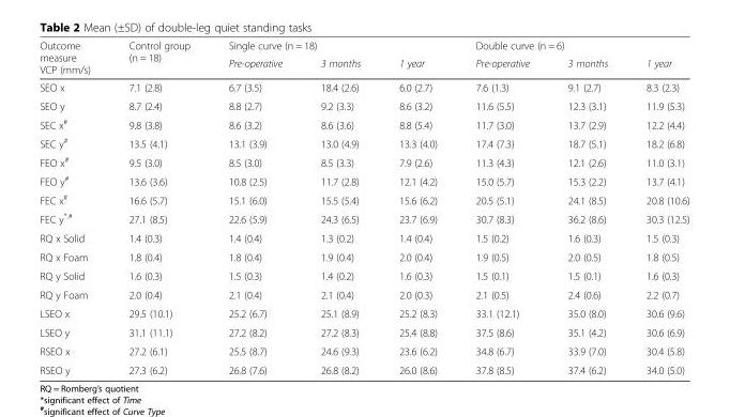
<table><thead><tr><td rowspan="2">Outcome measure VCP (mm/s)</td><td rowspan="2">Control group (n = 18)</td><td colspan="3">Single curve (n = 18)</td><td colspan="3">Double curve (n = 6)</td></tr><tr><td>Pre-operative</td><td>3 months</td><td>1 year</td><td>Pre-operative</td><td>3 months</td><td>1 year</td></tr></thead><tbody><tr><td>SEO x</td><td>7.1 (2.8)</td><td>6.7 (3.5)</td><td>18.4 (2.6)</td><td>6.0 (2.7)</td><td>7.6 (1.3)</td><td>9.1 (2.7)</td><td>8.3 (2.3)</td></tr><tr><td>SEO y</td><td>8.7 (2.4)</td><td>8.8 (2.7)</td><td>9.2 (3.3)</td><td>8.6 (3.2)</td><td>11.6 (5.5)</td><td>12.3 (3.1)</td><td>11.9 (5.3)</td></tr><tr><td>SEC x<sup>#</sup></td><td>9.8 (3.8)</td><td>8.6 (3.2)</td><td>8.6 (3.6)</td><td>8.8 (5.4)</td><td>11.7 (3.0)</td><td>13.7 (2.9)</td><td>12.2 (4.4)</td></tr><tr><td>SEC y<sup>#</sup></td><td>13.5 (4.1)</td><td>13.1 (3.9)</td><td>13.0 (4.9)</td><td>13.3 (4.0)</td><td>17.4 (7.3)</td><td>18.7 (5.1)</td><td>18.2 (6.8)</td></tr><tr><td>FEO x<sup>#</sup></td><td>9.5 (3.0)</td><td>8.5 (3.0)</td><td>8.5 (3.3)</td><td>7.9 (2.6)</td><td>11.3 (4.3)</td><td>12.1 (2.6)</td><td>11.0 (3.1)</td></tr><tr><td>FEO y<sup>#</sup></td><td>13.6 (3.6)</td><td>10.8 (2.5)</td><td>11.7 (2.8)</td><td>12.1 (4.2)</td><td>15.0 (5.7)</td><td>15.3 (2.2)</td><td>13.7 (4.1)</td></tr><tr><td>FEC x<sup>#</sup></td><td>16.6 (5.7)</td><td>15.1 (6.0)</td><td>15.5 (5.4)</td><td>15.6 (6.2)</td><td>20.5 (5.1)</td><td>24.1 (8.5)</td><td>20.8 (10.6)</td></tr><tr><td>FEC y<sup>*,#</sup></td><td>27.1 (8.5)</td><td>22.6 (5.9)</td><td>24.3 (6.5)</td><td>23.7 (6.9)</td><td>30.7 (8.3)</td><td>36.2 (8.6)</td><td>30.3 (12.5)</td></tr><tr><td>RQ x Solid</td><td>1.4 (0.3)</td><td>1.4 (0.4)</td><td>1.3 (0.2)</td><td>1.4 (0.4)</td><td>1.5 (0.2)</td><td>1.6 (0.3)</td><td>1.5 (0.3)</td></tr><tr><td>RQ x Foam</td><td>1.8 (0.4)</td><td>1.8 (0.4)</td><td>1.9 (0.4)</td><td>2.0 (0.4)</td><td>1.9 (0.5)</td><td>2.0 (0.5)</td><td>1.8 (0.5)</td></tr><tr><td>RQ y Solid</td><td>1.6 (0.3)</td><td>1.5 (0.3)</td><td>1.4 (0.2)</td><td>1.6 (0.3)</td><td>1.5 (0.1)</td><td>1.5 (0.1)</td><td>1.6 (0.3)</td></tr><tr><td>RQ y Foam</td><td>2.0 (0.4)</td><td>2.1 (0.4)</td><td>2.1 (0.4)</td><td>2.0 (0.3)</td><td>2.1 (0.5)</td><td>2.4 (0.6)</td><td>2.2 (0.7)</td></tr><tr><td>LSEO x</td><td>29.5 (10.1)</td><td>25.2 (6.7)</td><td>25.1 (8.9)</td><td>25.2 (8.3)</td><td>33.1 (12.1)</td><td>35.0 (8.0)</td><td>30.6 (9.6)</td></tr><tr><td>LSEO y</td><td>31.1 (11.1)</td><td>27.2 (8.2)</td><td>27.2 (8.3)</td><td>25.4 (8.8)</td><td>37.5 (8.6)</td><td>35.1 (4.2)</td><td>30.6 (6.9)</td></tr><tr><td>RSEO x</td><td>27.2 (6.1)</td><td>25.5 (8.7)</td><td>24.6 (9.3)</td><td>23.6 (6.2)</td><td>34.8 (6.7)</td><td>33.9 (7.0)</td><td>30.4 (5.8)</td></tr><tr><td>RSEO y</td><td>27.3 (6.2)</td><td>26.8 (7.6)</td><td>26.8 (8.2)</td><td>26.0 (8.6)</td><td>37.8 (8.5)</td><td>37.4 (6.2)</td><td>34.0 (5.0)</td></tr></tbody></table>